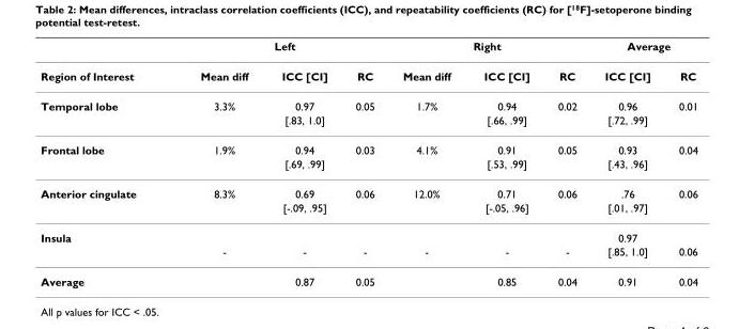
<table><thead><tr><td rowspan="2">Region of Interest</td><td colspan="3">Left</td><td colspan="3">Right</td><td colspan="2">Average</td></tr><tr><td>Mean diff</td><td>ICC [CI]</td><td>RC</td><td>Mean diff</td><td>ICC [CI]</td><td>RC</td><td>ICC [CI]</td><td>RC</td></tr></thead><tbody><tr><td rowspan="2">Temporal lobe</td><td>3.3%</td><td>0.97</td><td>0.05</td><td>1.7%</td><td>0.94</td><td>0.02</td><td>0.96</td><td>0.01</td></tr><tr><td></td><td>[.83, 1.0]</td><td></td><td></td><td>[.66, .99]</td><td></td><td>[.72, .99]</td><td></td></tr><tr><td rowspan="2">Frontal lobe</td><td>1.9%</td><td>0.94</td><td>0.03</td><td>4.1%</td><td>0.91</td><td>0.05</td><td>0.93</td><td>0.04</td></tr><tr><td></td><td>[.69, .99]</td><td></td><td></td><td>[.53, .99]</td><td></td><td>[.43, .96]</td><td></td></tr><tr><td rowspan="2">Anterior cingulate</td><td>8.3%</td><td>0.69</td><td>0.06</td><td>12.0%</td><td>0.71</td><td>0.06</td><td>.76</td><td>0.06</td></tr><tr><td></td><td>[-.09, .95]</td><td></td><td></td><td>[-.05, .96]</td><td></td><td>[.01, .97]</td><td></td></tr><tr><td rowspan="2">Insula</td><td></td><td></td><td></td><td></td><td></td><td></td><td>0.97</td><td></td></tr><tr><td>-</td><td>-</td><td>-</td><td>-</td><td>-</td><td>-</td><td>[.85, 1.0]</td><td>0.06</td></tr><tr><td>Average</td><td></td><td>0.87</td><td>0.05</td><td></td><td>0.85</td><td>0.04</td><td>0.91</td><td>0.04</td></tr></tbody></table>